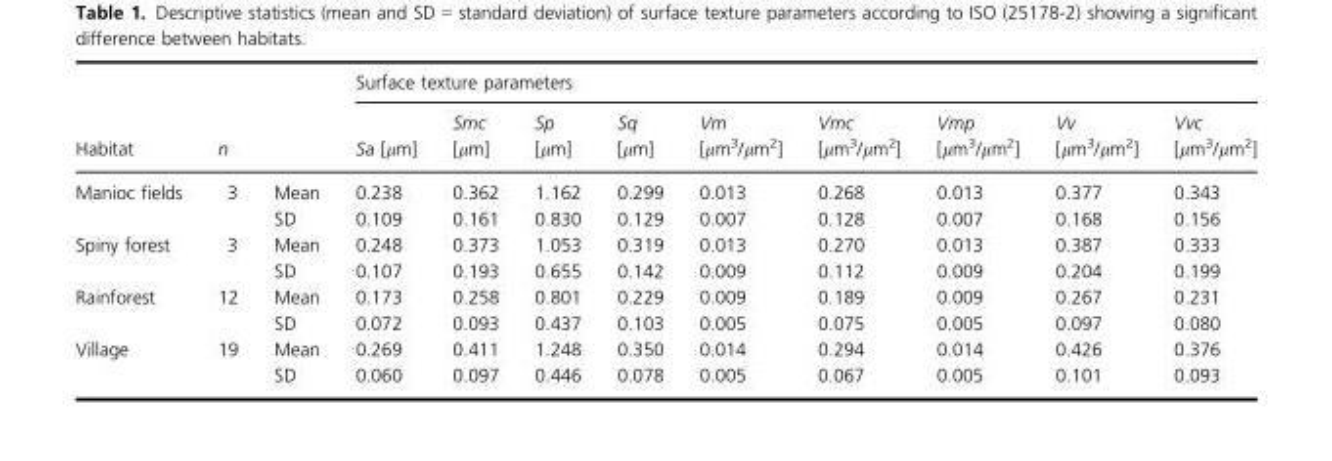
<table><thead><tr><td rowspan="2">Habitat</td><td rowspan="2">n</td><td rowspan="2"></td><td colspan="9">Surface texture parameters</td></tr><tr><td>Sa [μm]</td><td>Smc [μm]</td><td>Sp [μm]</td><td>Sq [μm]</td><td>Vm [μm<sup>3</sup>/μm<sup>2</sup>]</td><td>Vmc [μm<sup>3</sup>/μm<sup>2</sup>]</td><td>Vmp [μm<sup>3</sup>/μm<sup>2</sup>]</td><td>Vv [μm<sup>3</sup>/μm<sup>2</sup>]</td><td>Vvc [μm<sup>3</sup>/μm<sup>2</sup>]</td></tr></thead><tbody><tr><td rowspan="2">Manioc fields</td><td rowspan="2">3</td><td>Mean</td><td>0.238</td><td>0.362</td><td>1.162</td><td>0.299</td><td>0.013</td><td>0.268</td><td>0.013</td><td>0.377</td><td>0.343</td></tr><tr><td>SD</td><td>0.109</td><td>0.161</td><td>0.830</td><td>0.129</td><td>0.007</td><td>0.128</td><td>0.007</td><td>0.168</td><td>0.156</td></tr><tr><td rowspan="2">Spiny forest</td><td rowspan="2">3</td><td>Mean</td><td>0.248</td><td>0.373</td><td>1.053</td><td>0.319</td><td>0.013</td><td>0.270</td><td>0.013</td><td>0.387</td><td>0.333</td></tr><tr><td>SD</td><td>0.107</td><td>0.193</td><td>0.655</td><td>0.142</td><td>0.009</td><td>0.112</td><td>0.009</td><td>0.204</td><td>0.199</td></tr><tr><td rowspan="2">Rainforest</td><td rowspan="2">12</td><td>Mean</td><td>0.173</td><td>0.258</td><td>0.801</td><td>0.229</td><td>0.009</td><td>0.189</td><td>0.009</td><td>0.267</td><td>0.231</td></tr><tr><td>SD</td><td>0.072</td><td>0.093</td><td>0.437</td><td>0.103</td><td>0.005</td><td>0.075</td><td>0.005</td><td>0.097</td><td>0.080</td></tr><tr><td rowspan="2">Village</td><td rowspan="2">19</td><td>Mean</td><td>0.269</td><td>0.411</td><td>1.248</td><td>0.350</td><td>0.014</td><td>0.294</td><td>0.014</td><td>0.426</td><td>0.376</td></tr><tr><td>SD</td><td>0.060</td><td>0.097</td><td>0.446</td><td>0.078</td><td>0.005</td><td>0.067</td><td>0.005</td><td>0.101</td><td>0.093</td></tr></tbody></table>